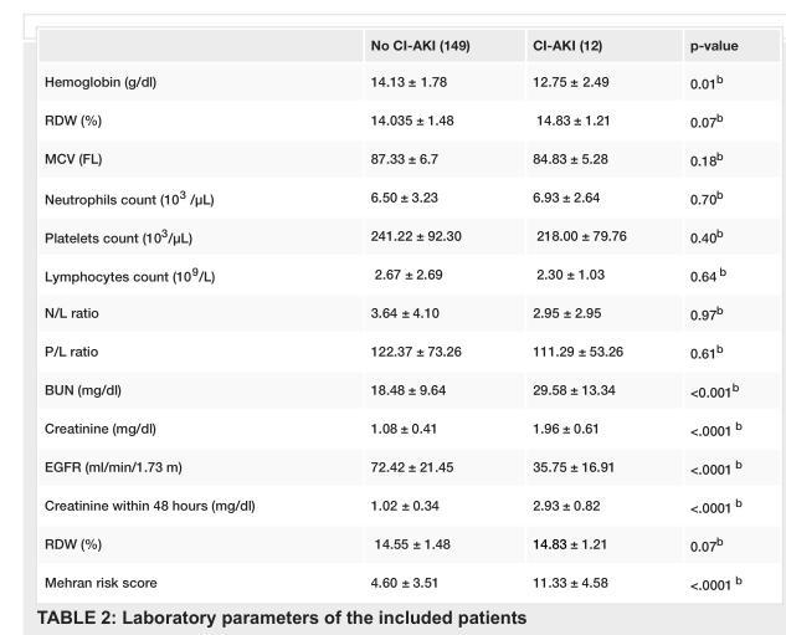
<table><thead><tr><td></td><td>No CI-AKI (149)</td><td>CI-AKI (12)</td><td>p-value</td></tr></thead><tbody><tr><td>Hemoglobin (g/dl)</td><td>14.13 ± 1.78</td><td>12.75 ± 2.49</td><td>0.01<sup>b</sup></td></tr><tr><td>RDW (%)</td><td>14.035 ± 1.48</td><td>14.83 ± 1.21</td><td>0.07<sup>b</sup></td></tr><tr><td>MCV (FL)</td><td>87.33 ± 6.7</td><td>84.83 ± 5.28</td><td>0.18<sup>b</sup></td></tr><tr><td>Neutrophils count (10<sup>3</sup> /µL)</td><td>6.50 ± 3.23</td><td>6.93 ± 2.64</td><td>0.70<sup>b</sup></td></tr><tr><td>Platelets count (10<sup>3</sup>/µL)</td><td>241.22 ± 92.30</td><td>218.00 ± 79.76</td><td>0.40<sup>b</sup></td></tr><tr><td>Lymphocytes count (10<sup>9</sup>/L)</td><td>2.67 ± 2.69</td><td>2.30 ± 1.03</td><td>0.64 <sup>b</sup></td></tr><tr><td>N/L ratio</td><td>3.64 ± 4.10</td><td>2.95 ± 2.95</td><td>0.97<sup>b</sup></td></tr><tr><td>P/L ratio</td><td>122.37 ± 73.26</td><td>111.29 ± 53.26</td><td>0.61<sup>b</sup></td></tr><tr><td>BUN (mg/dl)</td><td>18.48 ± 9.64</td><td>29.58 ± 13.34</td><td>&lt;0.001<sup>b</sup></td></tr><tr><td>Creatinine (mg/dl)</td><td>1.08 ± 0.41</td><td>1.96 ± 0.61</td><td>&lt;.0001 <sup>b</sup></td></tr><tr><td>EGFR (ml/min/1.73 m)</td><td>72.42 ± 21.45</td><td>35.75 ± 16.91</td><td>&lt;.0001 <sup>b</sup></td></tr><tr><td>Creatinine within 48 hours (mg/dl)</td><td>1.02 ± 0.34</td><td>2.93 ± 0.82</td><td>&lt;.0001 <sup>b</sup></td></tr><tr><td>RDW (%)</td><td>14.55 ± 1.48</td><td>14.83 ± 1.21</td><td>0.07<sup>b</sup></td></tr><tr><td>Mehran risk score</td><td>4.60 ± 3.51</td><td>11.33 ± 4.58</td><td>&lt;.0001 <sup>b</sup></td></tr></tbody></table>